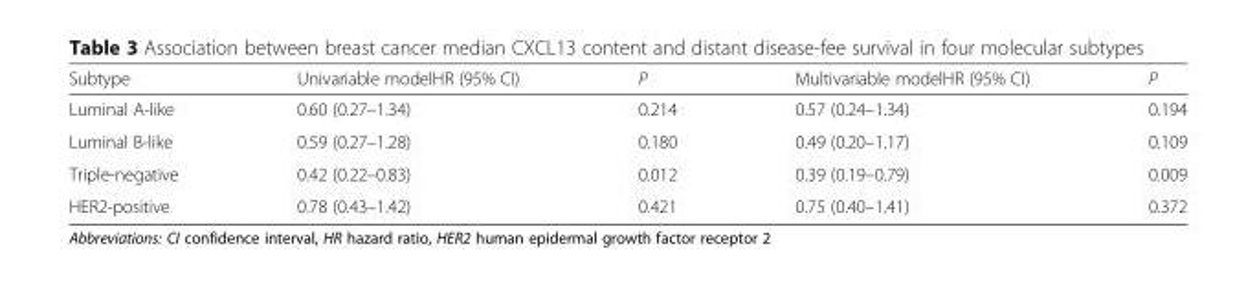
<table><thead><tr><td>Subtype</td><td>Univariable modelHR (95% CI)</td><td>P</td><td>Multivariable modelHR (95% CI)</td><td>P</td></tr></thead><tbody><tr><td>Luminal A-like</td><td>0.60 (0.27–1.34)</td><td>0.214</td><td>0.57 (0.24–1.34)</td><td>0.194</td></tr><tr><td>Luminal B-like</td><td>0.59 (0.27–1.28)</td><td>0.180</td><td>0.49 (0.20–1.17)</td><td>0.109</td></tr><tr><td>Triple-negative</td><td>0.42 (0.22–0.83)</td><td>0.012</td><td>0.39 (0.19–0.79)</td><td>0.009</td></tr><tr><td>HER2-positive</td><td>0.78 (0.43–1.42)</td><td>0.421</td><td>0.75 (0.40–1.41)</td><td>0.372</td></tr></tbody></table>